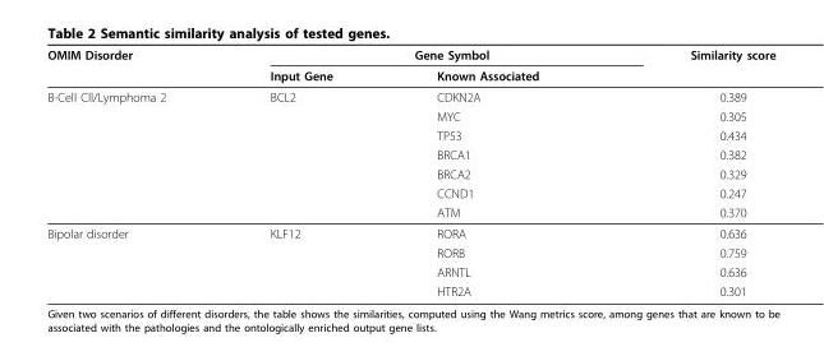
<table><thead><tr><td rowspan="2">OMIM Disorder</td><td colspan="2">Gene Symbol</td><td rowspan="2">Similarity score</td></tr><tr><td>Input Gene</td><td>Known Associated</td></tr></thead><tbody><tr><td rowspan="7">B-Cell Cll/Lymphoma 2</td><td>BCL2</td><td>CDKN2A</td><td>0.389</td></tr><tr><td></td><td>MYC</td><td>0.305</td></tr><tr><td></td><td>TP53</td><td>0.434</td></tr><tr><td></td><td>BRCA1</td><td>0.382</td></tr><tr><td></td><td>BRCA2</td><td>0.329</td></tr><tr><td></td><td>CCND1</td><td>0.247</td></tr><tr><td></td><td>ATM</td><td>0.370</td></tr><tr><td rowspan="4">Bipolar disorder</td><td>KLF12</td><td>RORA</td><td>0.636</td></tr><tr><td></td><td>RORB</td><td>0.759</td></tr><tr><td></td><td>ARNTL</td><td>0.636</td></tr><tr><td></td><td>HTR2A</td><td>0.301</td></tr></tbody></table>